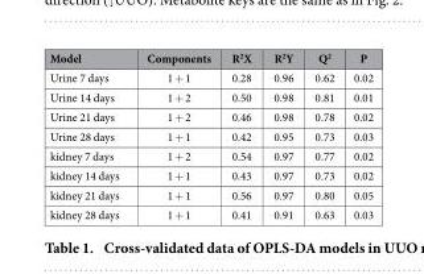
<table><thead><tr><td>Model</td><td>Components</td><td>R<sup>2</sup>X</td><td>R<sup>2</sup>Y</td><td>Q<sup>2</sup></td><td>P</td></tr></thead><tbody><tr><td>Urine 7 days</td><td>1 + 1</td><td>0.28</td><td>0.96</td><td>0.62</td><td>0.02</td></tr><tr><td>Urine 14 days</td><td>1 + 2</td><td>0.50</td><td>0.98</td><td>0.81</td><td>0.01</td></tr><tr><td>Urine 21 days</td><td>1 + 2</td><td>0.46</td><td>0.98</td><td>0.78</td><td>0.02</td></tr><tr><td>Urine 28 days</td><td>1 + 1</td><td>0.42</td><td>0.95</td><td>0.73</td><td>0.03</td></tr><tr><td>kidney 7 days</td><td>1 + 2</td><td>0.54</td><td>0.97</td><td>0.77</td><td>0.02</td></tr><tr><td>kidney 14 days</td><td>1 + 1</td><td>0.43</td><td>0.97</td><td>0.73</td><td>0.02</td></tr><tr><td>kidney 21 days</td><td>1 + 1</td><td>0.56</td><td>0.97</td><td>0.80</td><td>0.05</td></tr><tr><td>kidney 28 days</td><td>1 + 1</td><td>0.41</td><td>0.91</td><td>0.63</td><td>0.03</td></tr></tbody></table>